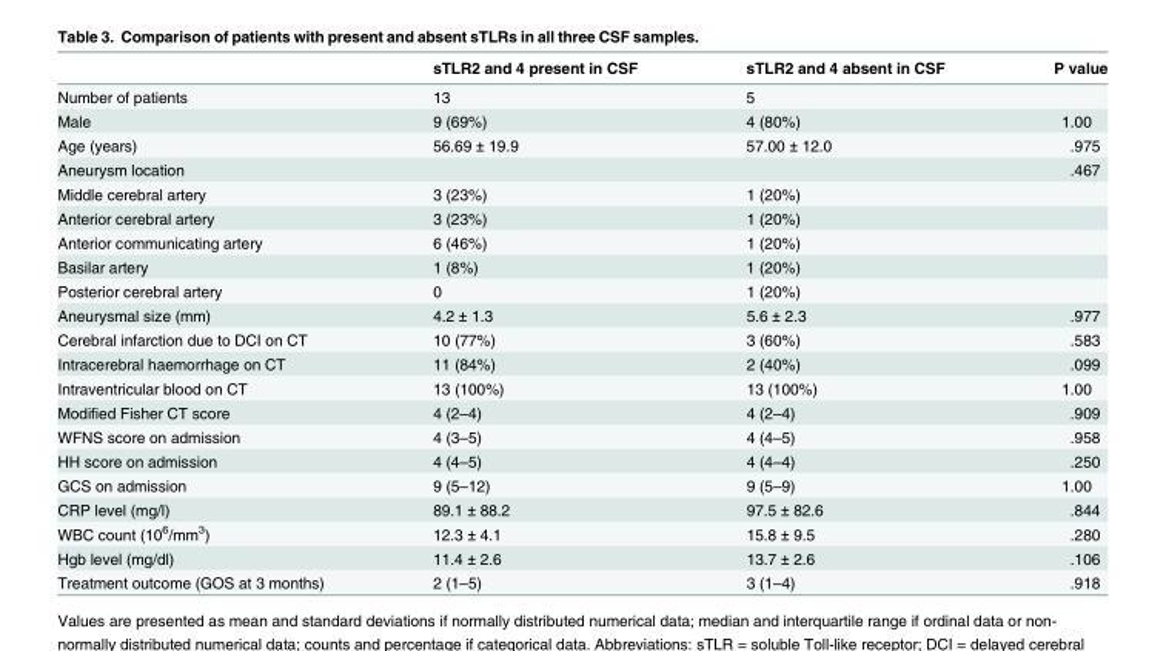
<table><thead><tr><td></td><td>sTLR2 and 4 present in CSF</td><td>sTLR2 and 4 absent in CSF</td><td>P value</td></tr></thead><tbody><tr><td>Number of patients</td><td>13</td><td>5</td><td></td></tr><tr><td>Male</td><td>9 (69%)</td><td>4 (80%)</td><td>1.00</td></tr><tr><td>Age (years)</td><td>56.69 ± 19.9</td><td>57.00 ± 12.0</td><td>.975</td></tr><tr><td>Aneurysm location</td><td></td><td></td><td>.467</td></tr><tr><td>Middle cerebral artery</td><td>3 (23%)</td><td>1 (20%)</td><td></td></tr><tr><td>Anterior cerebral artery</td><td>3 (23%)</td><td>1 (20%)</td><td></td></tr><tr><td>Anterior communicating artery</td><td>6 (46%)</td><td>1 (20%)</td><td></td></tr><tr><td>Basilar artery</td><td>1 (8%)</td><td>1 (20%)</td><td></td></tr><tr><td>Posterior cerebral artery</td><td>0</td><td>1 (20%)</td><td></td></tr><tr><td>Aneurysmal size (mm)</td><td>4.2 ± 1.3</td><td>5.6 ± 2.3</td><td>.977</td></tr><tr><td>Cerebral infarction due to DCI on CT</td><td>10 (77%)</td><td>3 (60%)</td><td>.583</td></tr><tr><td>Intracerebral haemorrhage on CT</td><td>11 (84%)</td><td>2 (40%)</td><td>.099</td></tr><tr><td>Intraventricular blood on CT</td><td>13 (100%)</td><td>13 (100%)</td><td>1.00</td></tr><tr><td>Modified Fisher CT score</td><td>4 (2–4)</td><td>4 (2–4)</td><td>.909</td></tr><tr><td>WFNS score on admission</td><td>4 (3–5)</td><td>4 (4–5)</td><td>.958</td></tr><tr><td>HH score on admission</td><td>4 (4–5)</td><td>4 (4–4)</td><td>.250</td></tr><tr><td>GCS on admission</td><td>9 (5–12)</td><td>9 (5–9)</td><td>1.00</td></tr><tr><td>CRP level (mg/l)</td><td>89.1 ± 88.2</td><td>97.5 ± 82.6</td><td>.844</td></tr><tr><td>WBC count (10<sup>6</sup>/mm<sup>3</sup>)</td><td>12.3 ± 4.1</td><td>15.8 ± 9.5</td><td>.280</td></tr><tr><td>Hgb level (mg/dl)</td><td>11.4 ± 2.6</td><td>13.7 ± 2.6</td><td>.106</td></tr><tr><td>Treatment outcome (GOS at 3 months)</td><td>2 (1–5)</td><td>3 (1–4)</td><td>.918</td></tr></tbody></table>